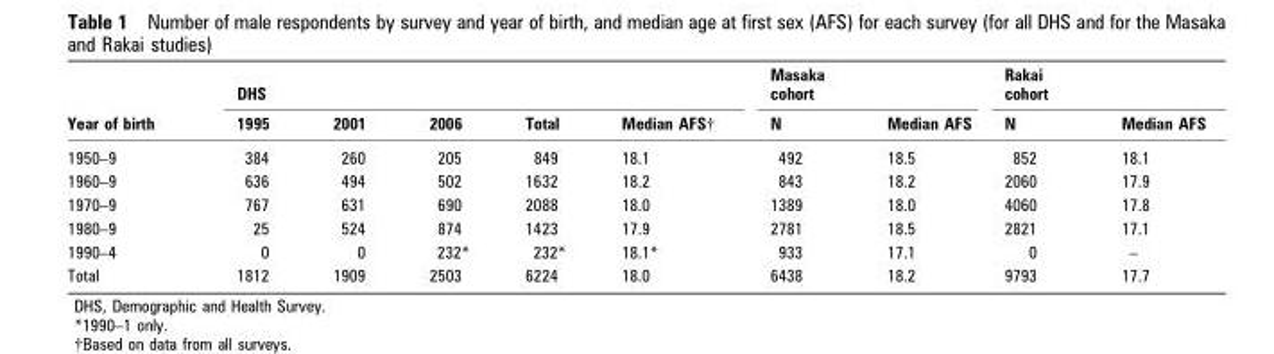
<table><thead><tr><td rowspan="2">Year of birth</td><td colspan="5">DHS</td><td colspan="2">Masaka cohort</td><td colspan="2">Rakai cohort</td></tr><tr><td>1995</td><td>2001</td><td>2006</td><td>Total</td><td>Median AFS†</td><td>N</td><td>Median AFS</td><td>N</td><td>Median AFS</td></tr></thead><tbody><tr><td>1950–9</td><td>384</td><td>260</td><td>205</td><td>849</td><td>18.1</td><td>492</td><td>18.5</td><td>852</td><td>18.1</td></tr><tr><td>1960–9</td><td>636</td><td>494</td><td>502</td><td>1632</td><td>18.2</td><td>843</td><td>18.2</td><td>2060</td><td>17.9</td></tr><tr><td>1970–9</td><td>767</td><td>631</td><td>690</td><td>2088</td><td>18.0</td><td>1389</td><td>18.0</td><td>4060</td><td>17.8</td></tr><tr><td>1980–9</td><td>25</td><td>524</td><td>874</td><td>1423</td><td>17.9</td><td>2781</td><td>18.5</td><td>2821</td><td>17.1</td></tr><tr><td>1990–4</td><td>0</td><td>0</td><td>232*</td><td>232*</td><td>18.1*</td><td>933</td><td>17.1</td><td>0</td><td>–</td></tr><tr><td>Total</td><td>1812</td><td>1909</td><td>2503</td><td>6224</td><td>18.0</td><td>6438</td><td>18.2</td><td>9793</td><td>17.7</td></tr></tbody></table>